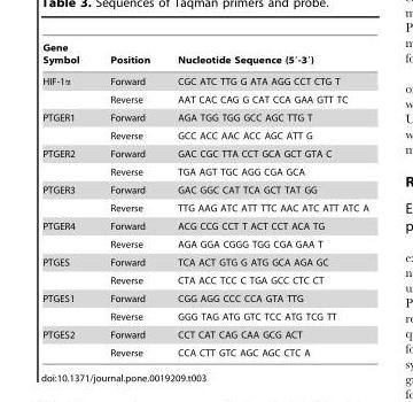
<table><thead><tr><td>Gene Symbol</td><td>Position</td><td>Nucleotide Sequence (5′-3′)</td></tr></thead><tbody><tr><td rowspan="2">HIF-1α</td><td>Forward</td><td>CGC ATC TTG G ATA AGG CCT CTG T</td></tr><tr><td>Reverse</td><td>AAT CAC CAG G CAT CCA GAA GTT TC</td></tr><tr><td rowspan="2">PTGER1</td><td>Forward</td><td>AGA TGG TGG GCC AGC TTG T</td></tr><tr><td>Reverse</td><td>GCC ACC AAC ACC AGC ATT G</td></tr><tr><td rowspan="2">PTGER2</td><td>Forward</td><td>GAC CGC TTA CCT GCA GCT GTA C</td></tr><tr><td>Reverse</td><td>TGA AGT TGC AGG CGA GCA</td></tr><tr><td rowspan="2">PTGER3</td><td>Forward</td><td>GAC GGC CAT TCA GCT TAT GG</td></tr><tr><td>Reverse</td><td>TTG AAG ATC ATT TTC AAC ATC ATT ATC A</td></tr><tr><td rowspan="2">PTGER4</td><td>Forward</td><td>ACG CCG CCT T ACT CCT ACA TG</td></tr><tr><td>Reverse</td><td>AGA GGA CGGG TGG CGA GAA T</td></tr><tr><td rowspan="2">PTGES</td><td>Forward</td><td>TCA ACT GTG G ATG GCA AGA GC</td></tr><tr><td>Reverse</td><td>CTA ACC TCC C TGA GCC CTC CT</td></tr><tr><td rowspan="2">PTGES1</td><td>Forward</td><td>CGG AGG CCC CCA GTA TTG</td></tr><tr><td>Reverse</td><td>GGG TAG ATG GTC TCC ATG TCG TT</td></tr><tr><td rowspan="2">PTGES2</td><td>Forward</td><td>CCT CAT CAG CAA GCG ACT</td></tr><tr><td>Reverse</td><td>CCA CTT GTC AGC AGC CTC A</td></tr></tbody></table>